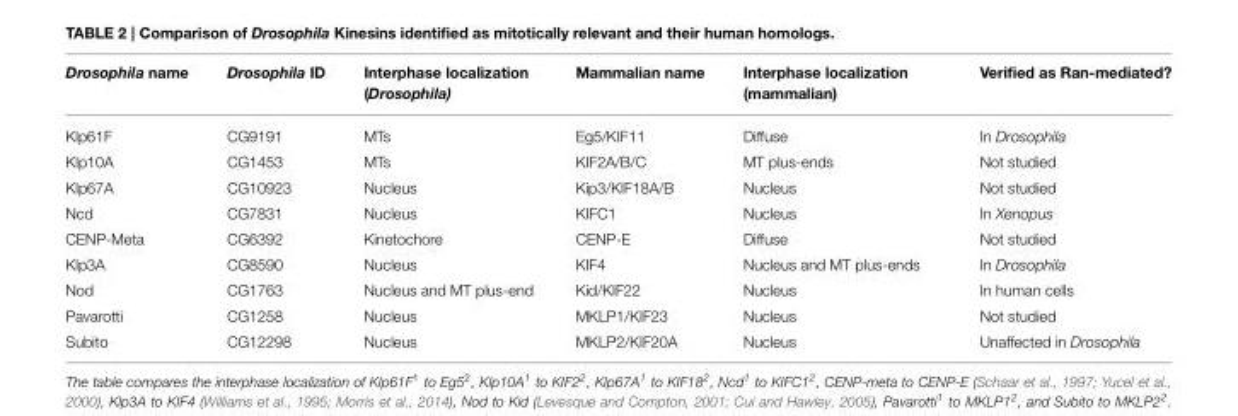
<table><thead><tr><td>Drosophila name</td><td>Drosophila ID</td><td>Interphase localization (Drosophila)</td><td>Mammalian name</td><td>Interphase localization (mammalian)</td><td>Verified as Ran-mediated?</td></tr></thead><tbody><tr><td>Klp61F</td><td>CG9191</td><td>MTs</td><td>Eg5/KIF11</td><td>Diffuse</td><td>In Drosophila</td></tr><tr><td>Klp10A</td><td>CG1453</td><td>MTs</td><td>KIF2A/B/C</td><td>MT plus-ends</td><td>Not studied</td></tr><tr><td>Klp67A</td><td>CG10923</td><td>Nucleus</td><td>Kip3/KIF18A/B</td><td>Nucleus</td><td>Not studied</td></tr><tr><td>Ncd</td><td>CG7831</td><td>Nucleus</td><td>KIFC1</td><td>Nucleus</td><td>In Xenopus</td></tr><tr><td>CENP-Meta</td><td>CG6392</td><td>Kinetochore</td><td>CENP-E</td><td>Diffuse</td><td>Not studied</td></tr><tr><td>Klp3A</td><td>CG8590</td><td>Nucleus</td><td>KIF4</td><td>Nucleus and MT plus-ends</td><td>In Drosophila</td></tr><tr><td>Nod</td><td>CG1763</td><td>Nucleus and MT plus-end</td><td>Kid/KIF22</td><td>Nucleus</td><td>In human cells</td></tr><tr><td>Pavarotti</td><td>CG1258</td><td>Nucleus</td><td>MKLP1/KIF23</td><td>Nucleus</td><td>Not studied</td></tr><tr><td>Subito</td><td>CG12298</td><td>Nucleus</td><td>MKLP2/KIF20A</td><td>Nucleus</td><td>Unaffected in Drosophila</td></tr></tbody></table>